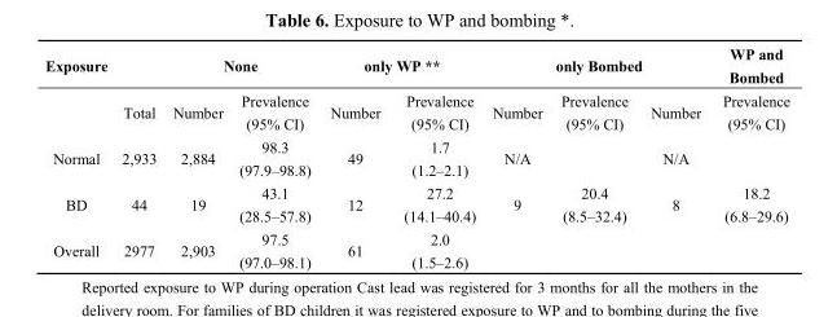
<table><thead><tr><td rowspan="2">Exposure</td><td rowspan="2">Total</td><td colspan="2">None</td><td colspan="2">only WP **</td><td colspan="3">only Bombed</td><td rowspan="2">WP and Bombed Prevalence (95% CI)</td></tr><tr><td>Number</td><td>Prevalence (95% CI)</td><td>Number</td><td>Prevalence (95% CI)</td><td>Number</td><td>Prevalence (95% CI)</td><td>Number</td></tr></thead><tbody><tr><td>Normal</td><td>2,933</td><td>2,884</td><td>98.3 (97.9–98.8)</td><td>49</td><td>1.7 (1.2–2.1)</td><td>N/A</td><td></td><td>N/A</td><td></td></tr><tr><td>BD</td><td>44</td><td>19</td><td>43.1 (28.5–57.8)</td><td>12</td><td>27.2 (14.1–40.4)</td><td>9</td><td>20.4 (8.5–32.4)</td><td>8</td><td>18.2 (6.8–29.6)</td></tr><tr><td>Overall</td><td>2977</td><td>2,903</td><td>97.5 (97.0–98.1)</td><td>61</td><td>2.0 (1.5–2.6)</td><td></td><td></td><td></td><td></td></tr></tbody></table>